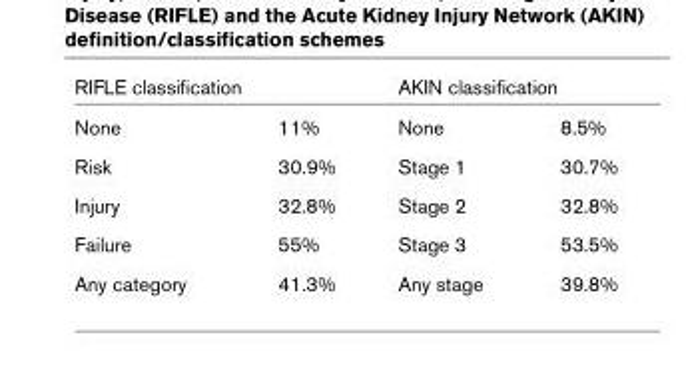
<table><thead><tr><td colspan="2">RIFLE classification</td><td colspan="2">AKIN classification</td></tr><tr><td>None</td><td>11%</td><td>None</td><td>8.5%</td></tr></thead><tbody><tr><td>Risk</td><td>30.9%</td><td>Stage 1</td><td>30.7%</td></tr><tr><td>Injury</td><td>32.8%</td><td>Stage 2</td><td>32.8%</td></tr><tr><td>Failure</td><td>55%</td><td>Stage 3</td><td>53.5%</td></tr><tr><td>Any category</td><td>41.3%</td><td>Any stage</td><td>39.8%</td></tr></tbody></table>